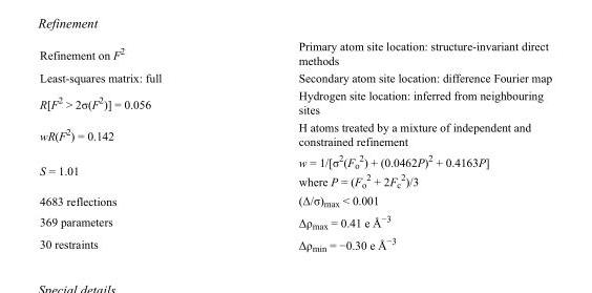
<table><tbody><tr><td>Refinement on F<sup>2</sup></td><td>Primary atom site location: structure-invariant direct methods</td></tr><tr><td>Least-squares matrix: full</td><td>Secondary atom site location: difference Fourier map</td></tr><tr><td>R[F<sup>2</sup> &gt; 2σ(F<sup>2</sup>)] = 0.056</td><td>Hydrogen site location: inferred from neighbouring sites</td></tr><tr><td>wR(F<sup>2</sup>) = 0.142</td><td>H atoms treated by a mixture of independent and constrained refinement</td></tr><tr><td>S = 1.01</td><td>w = 1/[σ<sup>2</sup>(F<sub>o</sub> <sup>2</sup>) + (0.0462P)<sup>2</sup> + 0.4163P] where P = (F<sub>o</sub> <sup>2</sup> + 2F<sub>c</sub> <sup>2</sup>)/3</td></tr><tr><td>4683 reflections</td><td>(Δ/σ)<sub>max</sub> &lt; 0.001</td></tr><tr><td>369 parameters</td><td>Δρ<sub>max</sub> = 0.41 e Å<sup>−3</sup></td></tr><tr><td>30 restraints</td><td>Δρ<sub>min</sub> = −0.30 e Å<sup>−3</sup></td></tr></tbody></table>